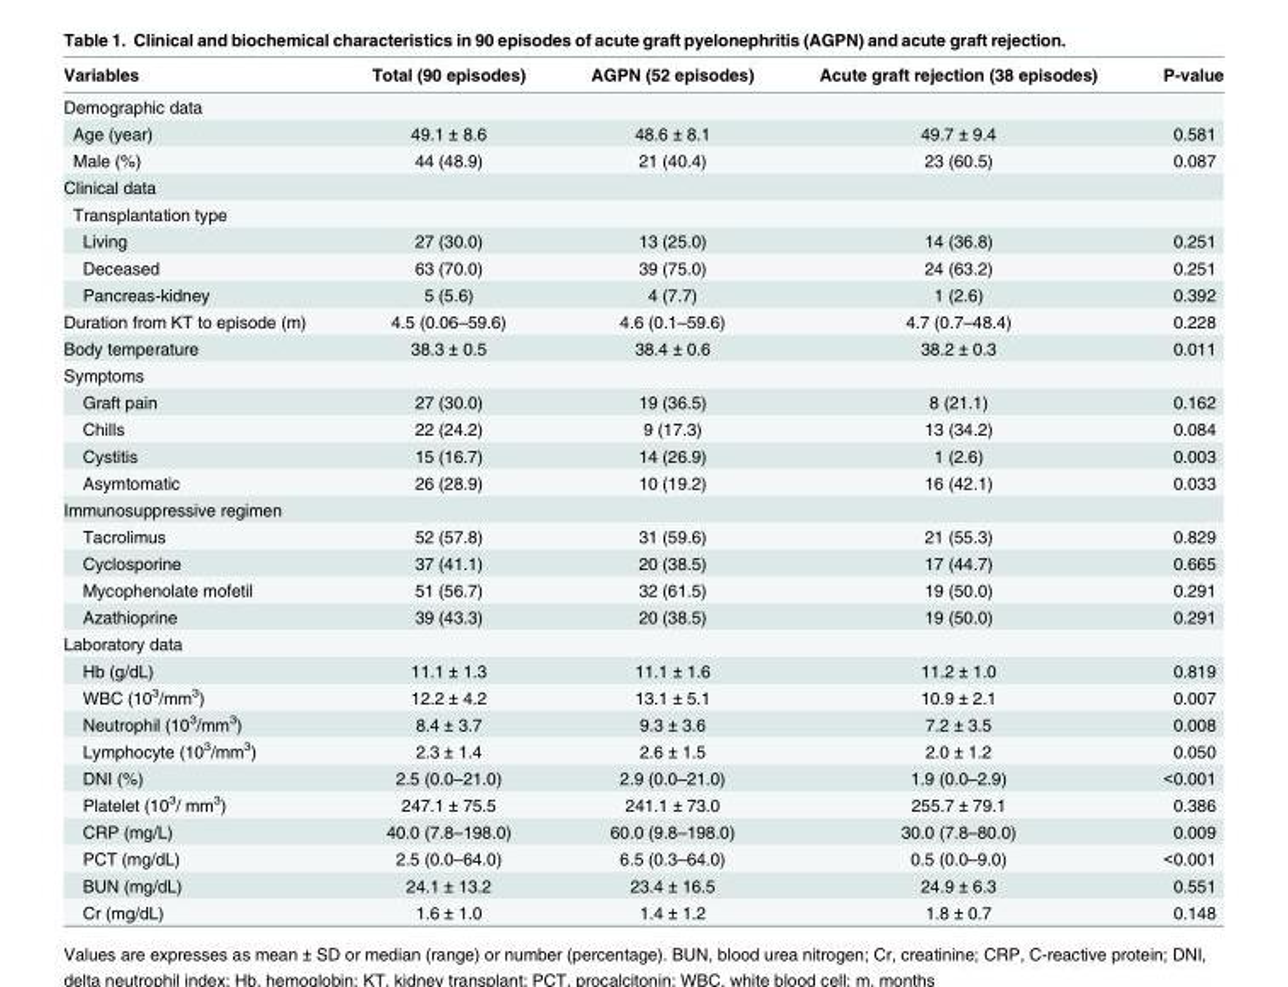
<table><thead><tr><td>Variables</td><td>Total (90 episodes)</td><td>AGPN (52 episodes)</td><td>Acute graft rejection (38 episodes)</td><td>P-value</td></tr></thead><tbody><tr><td colspan="5">Demographic data</td></tr><tr><td>Age (year)</td><td>49.1 ± 8.6</td><td>48.6 ± 8.1</td><td>49.7 ± 9.4</td><td>0.581</td></tr><tr><td>Male (%)</td><td>44 (48.9)</td><td>21 (40.4)</td><td>23 (60.5)</td><td>0.087</td></tr><tr><td colspan="5">Clinical data</td></tr><tr><td colspan="5">Transplantation type</td></tr><tr><td>Living</td><td>27 (30.0)</td><td>13 (25.0)</td><td>14 (36.8)</td><td>0.251</td></tr><tr><td>Deceased</td><td>63 (70.0)</td><td>39 (75.0)</td><td>24 (63.2)</td><td>0.251</td></tr><tr><td>Pancreas-kidney</td><td>5 (5.6)</td><td>4 (7.7)</td><td>1 (2.6)</td><td>0.392</td></tr><tr><td>Duration from KT to episode (m)</td><td>4.5 (0.06–59.6)</td><td>4.6 (0.1–59.6)</td><td>4.7 (0.7–48.4)</td><td>0.228</td></tr><tr><td>Body temperature</td><td>38.3 ± 0.5</td><td>38.4 ± 0.6</td><td>38.2 ± 0.3</td><td>0.011</td></tr><tr><td colspan="5">Symptoms</td></tr><tr><td>Graft pain</td><td>27 (30.0)</td><td>19 (36.5)</td><td>8 (21.1)</td><td>0.162</td></tr><tr><td>Chills</td><td>22 (24.2)</td><td>9 (17.3)</td><td>13 (34.2)</td><td>0.084</td></tr><tr><td>Cystitis</td><td>15 (16.7)</td><td>14 (26.9)</td><td>1 (2.6)</td><td>0.003</td></tr><tr><td>Asymtomatic</td><td>26 (28.9)</td><td>10 (19.2)</td><td>16 (42.1)</td><td>0.033</td></tr><tr><td colspan="5">Immunosuppressive regimen</td></tr><tr><td>Tacrolimus</td><td>52 (57.8)</td><td>31 (59.6)</td><td>21 (55.3)</td><td>0.829</td></tr><tr><td>Cyclosporine</td><td>37 (41.1)</td><td>20 (38.5)</td><td>17 (44.7)</td><td>0.665</td></tr><tr><td>Mycophenolate mofetil</td><td>51 (56.7)</td><td>32 (61.5)</td><td>19 (50.0)</td><td>0.291</td></tr><tr><td>Azathioprine</td><td>39 (43.3)</td><td>20 (38.5)</td><td>19 (50.0)</td><td>0.291</td></tr><tr><td colspan="5">Laboratory data</td></tr><tr><td>Hb (g/dL)</td><td>11.1 ± 1.3</td><td>11.1 ± 1.6</td><td>11.2 ± 1.0</td><td>0.819</td></tr><tr><td>WBC (10<sup>3</sup>/mm<sup>3</sup>)</td><td>12.2 ± 4.2</td><td>13.1 ± 5.1</td><td>10.9 ± 2.1</td><td>0.007</td></tr><tr><td>Neutrophil (10<sup>3</sup>/mm<sup>3</sup>)</td><td>8.4 ± 3.7</td><td>9.3 ± 3.6</td><td>7.2 ± 3.5</td><td>0.008</td></tr><tr><td>Lymphocyte (10<sup>3</sup>/mm<sup>3</sup>)</td><td>2.3 ± 1.4</td><td>2.6 ± 1.5</td><td>2.0 ± 1.2</td><td>0.050</td></tr><tr><td>DNI (%)</td><td>2.5 (0.0–21.0)</td><td>2.9 (0.0–21.0)</td><td>1.9 (0.0–2.9)</td><td>&lt;0.001</td></tr><tr><td>Platelet (10<sup>3</sup>/ mm<sup>3</sup>)</td><td>247.1 ± 75.5</td><td>241.1 ± 73.0</td><td>255.7 ± 79.1</td><td>0.386</td></tr><tr><td>CRP (mg/L)</td><td>40.0 (7.8–198.0)</td><td>60.0 (9.8–198.0)</td><td>30.0 (7.8–80.0)</td><td>0.009</td></tr><tr><td>PCT (mg/dL)</td><td>2.5 (0.0–64.0)</td><td>6.5 (0.3–64.0)</td><td>0.5 (0.0–9.0)</td><td>&lt;0.001</td></tr><tr><td>BUN (mg/dL)</td><td>24.1 ± 13.2</td><td>23.4 ± 16.5</td><td>24.9 ± 6.3</td><td>0.551</td></tr><tr><td>Cr (mg/dL)</td><td>1.6 ± 1.0</td><td>1.4 ± 1.2</td><td>1.8 ± 0.7</td><td>0.148</td></tr></tbody></table>